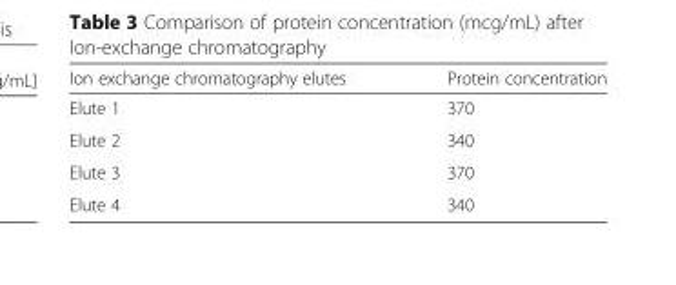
<table><thead><tr><td>Ion exchange chromatography elutes</td><td>Protein concentration</td></tr></thead><tbody><tr><td>Elute 1</td><td>370</td></tr><tr><td>Elute 2</td><td>340</td></tr><tr><td>Elute 3</td><td>370</td></tr><tr><td>Elute 4</td><td>340</td></tr></tbody></table>